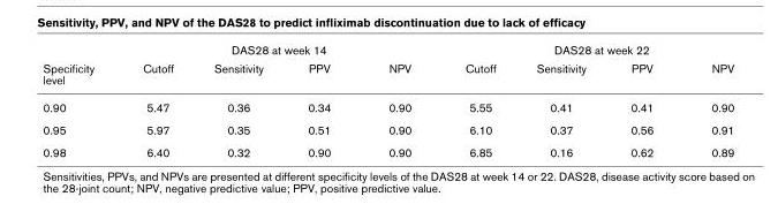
<table><thead><tr><td rowspan="2">Specificity level</td><td colspan="4">DAS28 at week 14</td><td colspan="4">DAS28 at week 22</td></tr><tr><td>Cutoff</td><td>Sensitivity</td><td>PPV</td><td>NPV</td><td>Cutoff</td><td>Sensitivity</td><td>PPV</td><td>NPV</td></tr></thead><tbody><tr><td>0.90</td><td>5.47</td><td>0.36</td><td>0.34</td><td>0.90</td><td>5.55</td><td>0.41</td><td>0.41</td><td>0.90</td></tr><tr><td>0.95</td><td>5.97</td><td>0.35</td><td>0.51</td><td>0.90</td><td>6.10</td><td>0.37</td><td>0.56</td><td>0.91</td></tr><tr><td>0.98</td><td>6.40</td><td>0.32</td><td>0.90</td><td>0.90</td><td>6.85</td><td>0.16</td><td>0.62</td><td>0.89</td></tr></tbody></table>